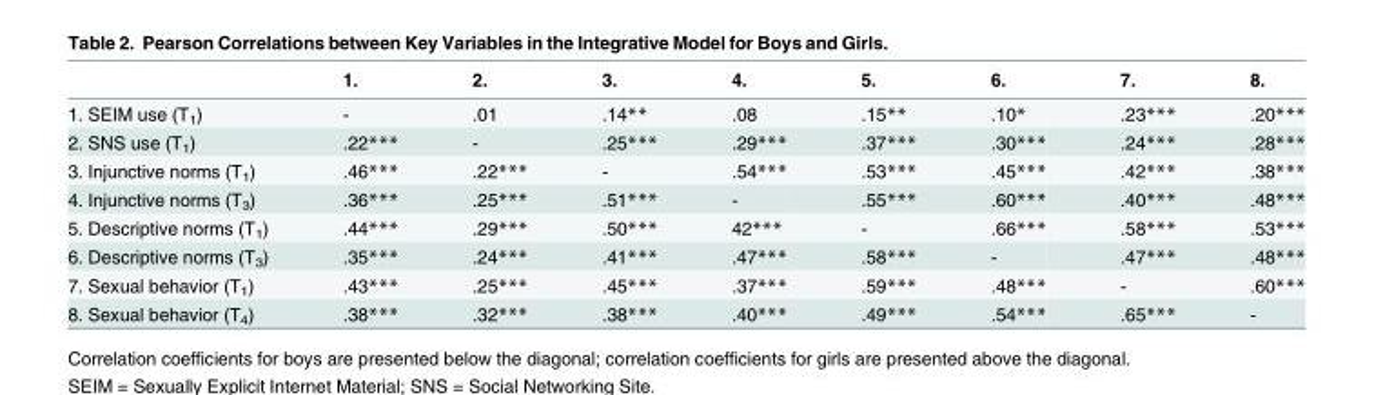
<table><thead><tr><td></td><td>1.</td><td>2.</td><td>3.</td><td>4.</td><td>5.</td><td>6.</td><td>7.</td><td>8.</td></tr></thead><tbody><tr><td>1. SEIM use (T<sub>1</sub>)</td><td>-</td><td>.01</td><td>.14**</td><td>.08</td><td>.15**</td><td>.10*</td><td>.23***</td><td>.20***</td></tr><tr><td>2. SNS use (T<sub>1</sub>)</td><td>.22***</td><td>-</td><td>.25***</td><td>.29***</td><td>.37***</td><td>.30***</td><td>.24***</td><td>.28***</td></tr><tr><td>3. Injunctive norms (T<sub>1</sub>)</td><td>.46***</td><td>.22***</td><td>-</td><td>.54***</td><td>.53***</td><td>.45***</td><td>.42***</td><td>.38***</td></tr><tr><td>4. Injunctive norms (T<sub>3</sub>)</td><td>.36***</td><td>.25***</td><td>.51***</td><td>-</td><td>.55***</td><td>.60***</td><td>.40***</td><td>.48***</td></tr><tr><td>5. Descriptive norms (T<sub>1</sub>)</td><td>.44***</td><td>.29***</td><td>.50***</td><td>42***</td><td>-</td><td>.66***</td><td>.58***</td><td>.53***</td></tr><tr><td>6. Descriptive norms (T<sub>3</sub>)</td><td>.35***</td><td>.24***</td><td>.41***</td><td>.47***</td><td>.58***</td><td>-</td><td>.47***</td><td>.48***</td></tr><tr><td>7. Sexual behavior (T<sub>1</sub>)</td><td>.43***</td><td>.25***</td><td>.45***</td><td>.37***</td><td>.59***</td><td>.48***</td><td>-</td><td>.60***</td></tr><tr><td>8. Sexual behavior (T<sub>4</sub>)</td><td>.38***</td><td>.32***</td><td>.38***</td><td>.40***</td><td>.49***</td><td>.54***</td><td>.65***</td><td>-</td></tr></tbody></table>